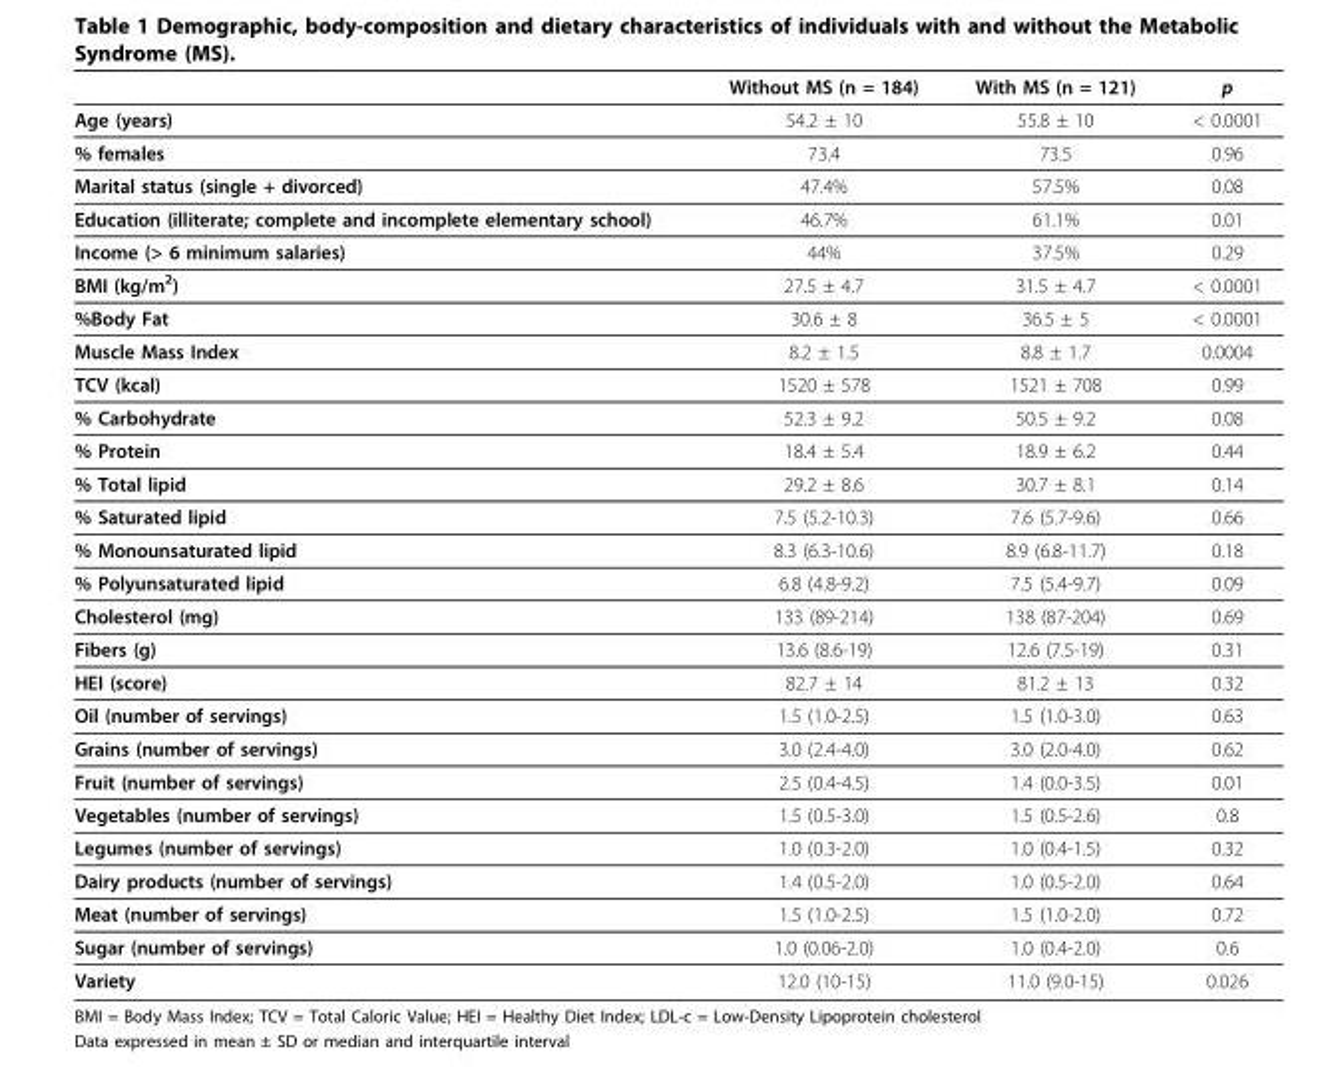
<table><thead><tr><td></td><td>Without MS (n = 184)</td><td>With MS (n = 121)</td><td>p</td></tr></thead><tbody><tr><td>Age (years)</td><td>54.2 ± 10</td><td>55.8 ± 10</td><td>&lt; 0.0001</td></tr><tr><td>% females</td><td>73.4</td><td>73.5</td><td>0.96</td></tr><tr><td>Marital status (single + divorced)</td><td>47.4%</td><td>57.5%</td><td>0.08</td></tr><tr><td>Education (illiterate; complete and incomplete elementary school)</td><td>46.7%</td><td>61.1%</td><td>0.01</td></tr><tr><td>Income (&gt; 6 minimum salaries)</td><td>44%</td><td>37.5%</td><td>0.29</td></tr><tr><td>BMI (kg/m<sup>2</sup>)</td><td>27.5 ± 4.7</td><td>31.5 ± 4.7</td><td>&lt; 0.0001</td></tr><tr><td>%Body Fat</td><td>30.6 ± 8</td><td>36.5 ± 5</td><td>&lt; 0.0001</td></tr><tr><td>Muscle Mass Index</td><td>8.2 ± 1.5</td><td>8.8 ± 1.7</td><td>0.0004</td></tr><tr><td>TCV (kcal)</td><td>1520 ± 578</td><td>1521 ± 708</td><td>0.99</td></tr><tr><td>% Carbohydrate</td><td>52.3 ± 9.2</td><td>50.5 ± 9.2</td><td>0.08</td></tr><tr><td>% Protein</td><td>18.4 ± 5.4</td><td>18.9 ± 6.2</td><td>0.44</td></tr><tr><td>% Total lipid</td><td>29.2 ± 8.6</td><td>30.7 ± 8.1</td><td>0.14</td></tr><tr><td>% Saturated lipid</td><td>7.5 (5.2-10.3)</td><td>7.6 (5.7-9.6)</td><td>0.66</td></tr><tr><td>% Monounsaturated lipid</td><td>8.3 (6.3-10.6)</td><td>8.9 (6.8-11.7)</td><td>0.18</td></tr><tr><td>% Polyunsaturated lipid</td><td>6.8 (4.8-9.2)</td><td>7.5 (5.4-9.7)</td><td>0.09</td></tr><tr><td>Cholesterol (mg)</td><td>133 (89-214)</td><td>138 (87-204)</td><td>0.69</td></tr><tr><td>Fibers (g)</td><td>13.6 (8.6-19)</td><td>12.6 (7.5-19)</td><td>0.31</td></tr><tr><td>HEI (score)</td><td>82.7 ± 14</td><td>81.2 ± 13</td><td>0.32</td></tr><tr><td>Oil (number of servings)</td><td>1.5 (1.0-2.5)</td><td>1.5 (1.0-3.0)</td><td>0.63</td></tr><tr><td>Grains (number of servings)</td><td>3.0 (2.4-4.0)</td><td>3.0 (2.0-4.0)</td><td>0.62</td></tr><tr><td>Fruit (number of servings)</td><td>2.5 (0.4-4.5)</td><td>1.4 (0.0-3.5)</td><td>0.01</td></tr><tr><td>Vegetables (number of servings)</td><td>1.5 (0.5-3.0)</td><td>1.5 (0.5-2.6)</td><td>0.8</td></tr><tr><td>Legumes (number of servings)</td><td>1.0 (0.3-2.0)</td><td>1.0 (0.4-1.5)</td><td>0.32</td></tr><tr><td>Dairy products (number of servings)</td><td>1.4 (0.5-2.0)</td><td>1.0 (0.5-2.0)</td><td>0.64</td></tr><tr><td>Meat (number of servings)</td><td>1.5 (1.0-2.5)</td><td>1.5 (1.0-2.0)</td><td>0.72</td></tr><tr><td>Sugar (number of servings)</td><td>1.0 (0.06-2.0)</td><td>1.0 (0.4-2.0)</td><td>0.6</td></tr><tr><td>Variety</td><td>12.0 (10-15)</td><td>11.0 (9.0-15)</td><td>0.026</td></tr></tbody></table>